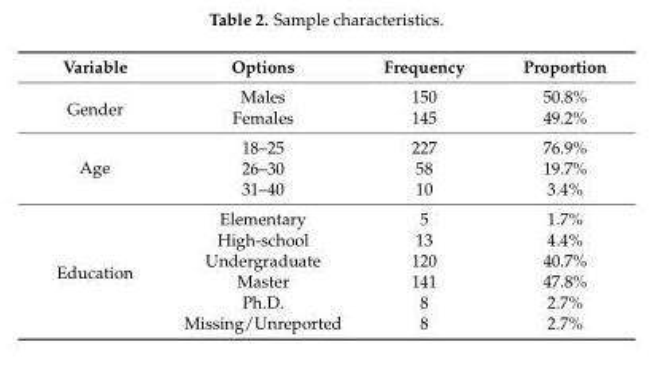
<table><thead><tr><td>Variable</td><td>Options</td><td>Frequency</td><td>Proportion</td></tr></thead><tbody><tr><td rowspan="2">Gender</td><td>Males</td><td>150</td><td>50.8%</td></tr><tr><td>Females</td><td>145</td><td>49.2%</td></tr><tr><td rowspan="3">Age</td><td>18–25</td><td>227</td><td>76.9%</td></tr><tr><td>26–30</td><td>58</td><td>19.7%</td></tr><tr><td>31–40</td><td>10</td><td>3.4%</td></tr><tr><td rowspan="6">Education</td><td>Elementary</td><td>5</td><td>1.7%</td></tr><tr><td>High-school</td><td>13</td><td>4.4%</td></tr><tr><td>Undergraduate</td><td>120</td><td>40.7%</td></tr><tr><td>Master</td><td>141</td><td>47.8%</td></tr><tr><td>Ph.D.</td><td>8</td><td>2.7%</td></tr><tr><td>Missing/Unreported</td><td>8</td><td>2.7%</td></tr></tbody></table>